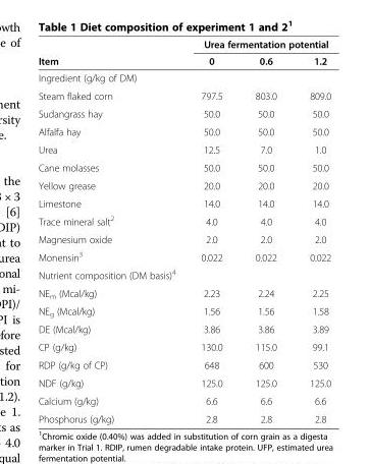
<table><thead><tr><td rowspan="2">Item</td><td colspan="3">Urea fermentation potential</td></tr><tr><td>0</td><td>0.6</td><td>1.2</td></tr></thead><tbody><tr><td colspan="4">Ingredient (g/kg of DM)</td></tr><tr><td>Steam flaked corn</td><td>797.5</td><td>803.0</td><td>809.0</td></tr><tr><td>Sudangrass hay</td><td>50.0</td><td>50.0</td><td>50.0</td></tr><tr><td>Alfalfa hay</td><td>50.0</td><td>50.0</td><td>50.0</td></tr><tr><td>Urea</td><td>12.5</td><td>7.0</td><td>1.0</td></tr><tr><td>Cane molasses</td><td>50.0</td><td>50.0</td><td>50.0</td></tr><tr><td>Yellow grease</td><td>20.0</td><td>20.0</td><td>20.0</td></tr><tr><td>Limestone</td><td>14.0</td><td>14.0</td><td>14.0</td></tr><tr><td>Trace mineral salt<sup>2</sup></td><td>4.0</td><td>4.0</td><td>4.0</td></tr><tr><td>Magnesium oxide</td><td>2.0</td><td>2.0</td><td>2.0</td></tr><tr><td>Monensin<sup>3</sup></td><td>0.022</td><td>0.022</td><td>0.022</td></tr><tr><td colspan="4">Nutrient composition (DM basis)<sup>4</sup></td></tr><tr><td>NE<sub>m</sub> (Mcal/kg)</td><td>2.23</td><td>2.24</td><td>2.25</td></tr><tr><td>NE<sub>g</sub> (Mcal/kg)</td><td>1.56</td><td>1.56</td><td>1.58</td></tr><tr><td>DE (Mcal/kg)</td><td>3.86</td><td>3.86</td><td>3.89</td></tr><tr><td>CP (g/kg)</td><td>130.0</td><td>115.0</td><td>99.1</td></tr><tr><td>RDP (g/kg of CP)</td><td>648</td><td>600</td><td>530</td></tr><tr><td>NDF (g/kg)</td><td>125.0</td><td>125.0</td><td>125.0</td></tr><tr><td>Calcium (g/kg)</td><td>6.6</td><td>6.6</td><td>6.6</td></tr><tr><td>Phosphorus (g/kg)</td><td>2.8</td><td>2.8</td><td>2.8</td></tr></tbody></table>